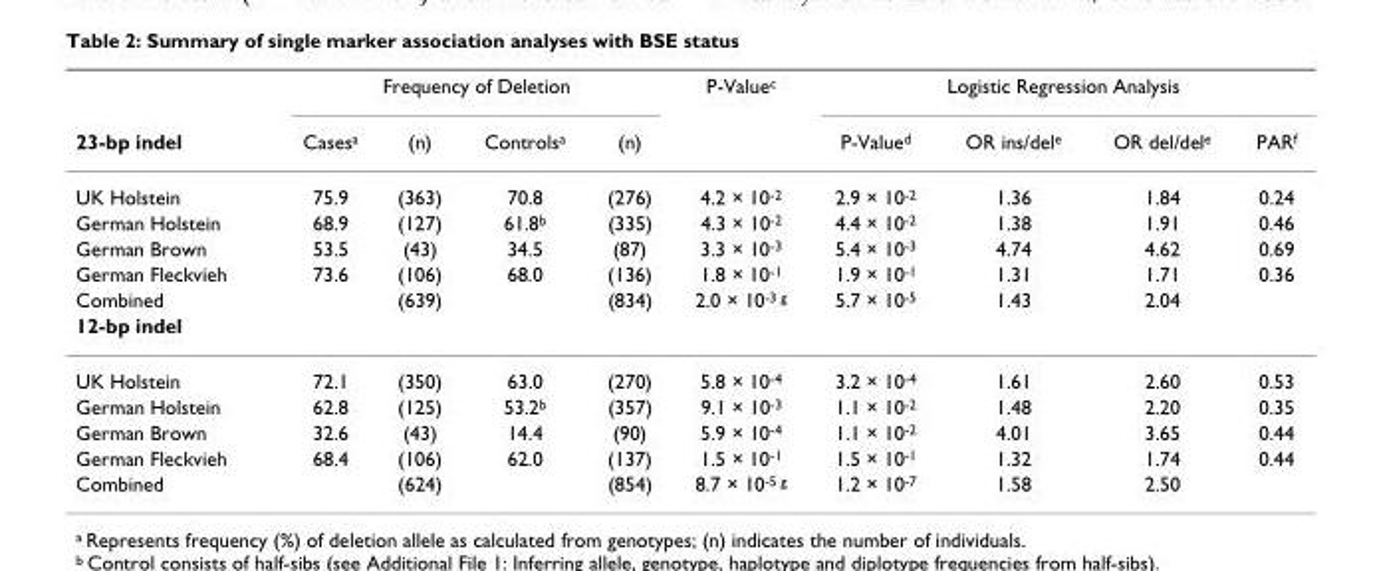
<table><thead><tr><td rowspan="2">23-bp indel</td><td colspan="4">Frequency of Deletion</td><td rowspan="2">P-Valuec</td><td colspan="4">Logistic Regression Analysis</td></tr><tr><td>Casesa</td><td>(n)</td><td>Controlsa</td><td>(n)</td><td>P-Valued</td><td>OR ins/dele</td><td>OR del/dele</td><td>PARf</td></tr></thead><tbody><tr><td>UK Holstein</td><td>75.9</td><td>(363)</td><td>70.8</td><td>(276)</td><td>4.2 × 10-2</td><td>2.9 × 10-2</td><td>1.36</td><td>1.84</td><td>0.24</td></tr><tr><td>German Holstein</td><td>68.9</td><td>(127)</td><td>61.8b</td><td>(335)</td><td>4.3 × 10-2</td><td>4.4 × 10-2</td><td>1.38</td><td>1.91</td><td>0.46</td></tr><tr><td>German Brown</td><td>53.5</td><td>(43)</td><td>34.5</td><td>(87)</td><td>3.3 × 10-3</td><td>5.4 × 10-3</td><td>4.74</td><td>4.62</td><td>0.69</td></tr><tr><td>German Fleckvieh</td><td>73.6</td><td>(106)</td><td>68.0</td><td>(136)</td><td>1.8 × 10-1</td><td>1.9 × 10-1</td><td>1.31</td><td>1.71</td><td>0.36</td></tr><tr><td>Combined</td><td></td><td>(639)</td><td></td><td>(834)</td><td>2.0 × 10-3 g</td><td>5.7 × 10-5</td><td>1.43</td><td>2.04</td><td></td></tr><tr><td colspan="10">12-bp indel</td></tr><tr><td>UK Holstein</td><td>72.1</td><td>(350)</td><td>63.0</td><td>(270)</td><td>5.8 × 10-4</td><td>3.2 × 10-4</td><td>1.61</td><td>2.60</td><td>0.53</td></tr><tr><td>German Holstein</td><td>62.8</td><td>(125)</td><td>53.2b</td><td>(357)</td><td>9.1 × 10-3</td><td>1.1 × 10-2</td><td>1.48</td><td>2.20</td><td>0.35</td></tr><tr><td>German Brown</td><td>32.6</td><td>(43)</td><td>14.4</td><td>(90)</td><td>5.9 × 10-4</td><td>1.1 × 10-2</td><td>4.01</td><td>3.65</td><td>0.44</td></tr><tr><td>German Fleckvieh</td><td>68.4</td><td>(106)</td><td>62.0</td><td>(137)</td><td>1.5 × 10-1</td><td>1.5 × 10-1</td><td>1.32</td><td>1.74</td><td>0.44</td></tr><tr><td>Combined</td><td></td><td>(624)</td><td></td><td>(854)</td><td>8.7 × 10-5 g</td><td>1.2 × 10-7</td><td>1.58</td><td>2.50</td><td></td></tr></tbody></table>